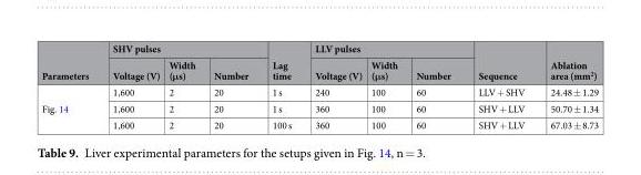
<table><thead><tr><td rowspan="2">Parameters</td><td colspan="3">SHV pulses</td><td rowspan="2">Lag time</td><td colspan="3">LLV pulses</td><td rowspan="2">Sequence</td><td rowspan="2">Ablation area (mm<sup>2</sup>)</td></tr><tr><td>Voltage (V)</td><td>Width (μs)</td><td>Number</td><td>Voltage (V)</td><td>Width (μs)</td><td>Number</td></tr></thead><tbody><tr><td rowspan="3">Fig. 14</td><td>1,600</td><td>2</td><td>20</td><td>1 s</td><td>240</td><td>100</td><td>60</td><td>LLV + SHV</td><td>24.48 ± 1.29</td></tr><tr><td>1,600</td><td>2</td><td>20</td><td>1 s</td><td>360</td><td>100</td><td>60</td><td>SHV + LLV</td><td>50.70 ± 1.34</td></tr><tr><td>1,600</td><td>2</td><td>20</td><td>100 s</td><td>360</td><td>100</td><td>60</td><td>SHV + LLV</td><td>67.03 ± 8.73</td></tr></tbody></table>